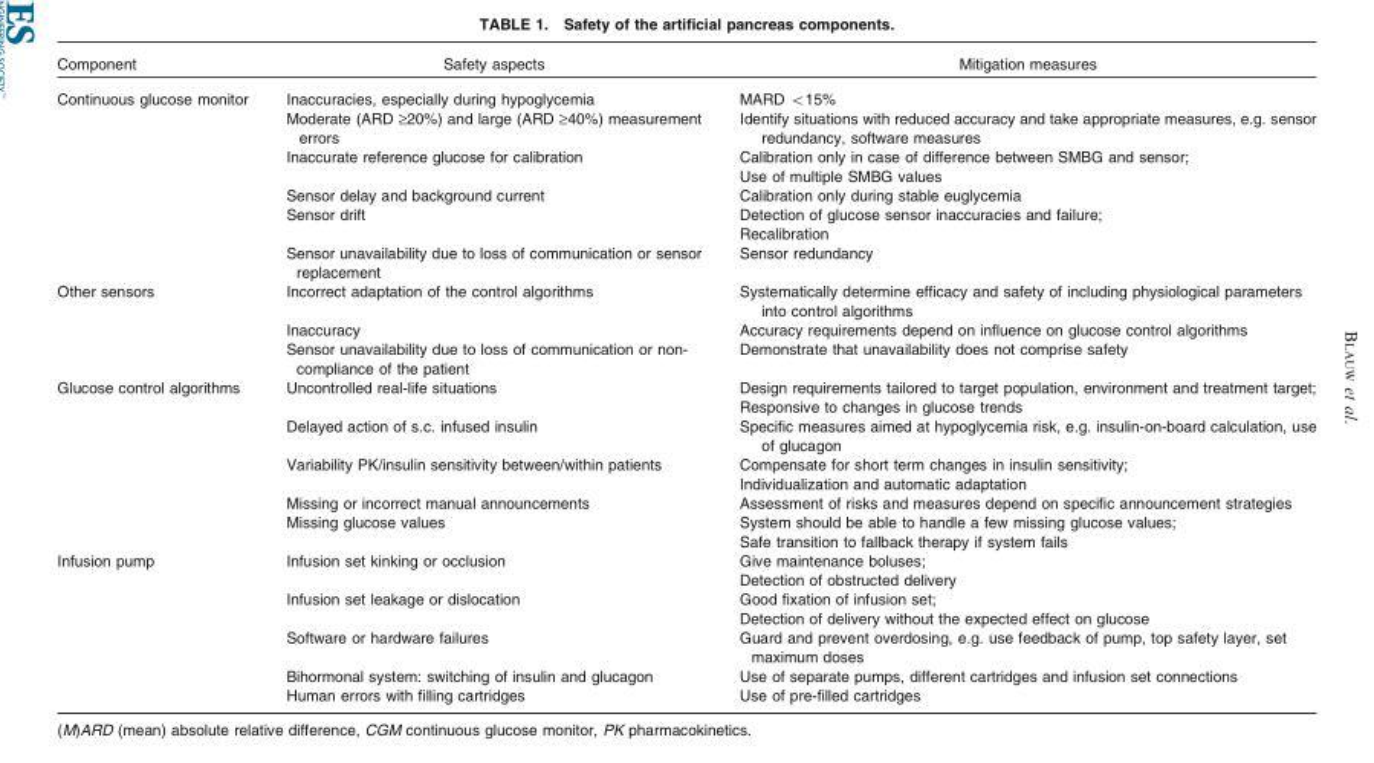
<table><thead><tr><td>Component</td><td>Safety aspects</td><td>Mitigation measures</td></tr></thead><tbody><tr><td rowspan="6">Continuous glucose monitor</td><td>Inaccuracies, especially during hypoglycemia</td><td>MARD &lt;15%</td></tr><tr><td>Moderate (ARD ‡20%) and large (ARD ‡40%) measurement errors</td><td>Identify situations with reduced accuracy and take appropriate measures, e.g. sensor redundancy, software measures</td></tr><tr><td>Inaccurate reference glucose for calibration</td><td>Calibration only in case of difference between SMBG and sensor; Use of multiple SMBG values</td></tr><tr><td>Sensor delay and background current</td><td>Calibration only during stable euglycemia</td></tr><tr><td>Sensor drift</td><td>Detection of glucose sensor inaccuracies and failure; Recalibration</td></tr><tr><td>Sensor unavailability due to loss of communication or sensor replacement</td><td>Sensor redundancy</td></tr><tr><td rowspan="3">Other sensors</td><td>Incorrect adaptation of the control algorithms</td><td>Systematically determine efficacy and safety of including physiological parameters into control algorithms</td></tr><tr><td>Inaccuracy</td><td>Accuracy requirements depend on influence on glucose control algorithms</td></tr><tr><td>Sensor unavailability due to loss of communication or non- compliance of the patient</td><td>Demonstrate that unavailability does not comprise safety</td></tr><tr><td rowspan="5">Glucose control algorithms</td><td>Uncontrolled real-life situations</td><td>Design requirements tailored to target population, environment and treatment target; Responsive to changes in glucose trends</td></tr><tr><td>Delayed action of s.c. infused insulin</td><td>Specific measures aimed at hypoglycemia risk, e.g. insulin-on-board calculation, use of glucagon</td></tr><tr><td>Variability PK/insulin sensitivity between/within patients</td><td>Compensate for short term changes in insulin sensitivity; Individualization and automatic adaptation</td></tr><tr><td>Missing or incorrect manual announcements</td><td>Assessment of risks and measures depend on specific announcement strategies</td></tr><tr><td>Missing glucose values</td><td>System should be able to handle a few missing glucose values; Safe transition to fallback therapy if system fails</td></tr><tr><td rowspan="5">Infusion pump</td><td>Infusion set kinking or occlusion</td><td>Give maintenance boluses; Detection of obstructed delivery</td></tr><tr><td>Infusion set leakage or dislocation</td><td>Good fixation of infusion set; Detection of delivery without the expected effect on glucose</td></tr><tr><td>Software or hardware failures</td><td>Guard and prevent overdosing, e.g. use feedback of pump, top safety layer, set maximum doses</td></tr><tr><td>Bihormonal system: switching of insulin and glucagon</td><td>Use of separate pumps, different cartridges and infusion set connections</td></tr><tr><td>Human errors with filling cartridges</td><td>Use of pre-filled cartridges</td></tr></tbody></table>